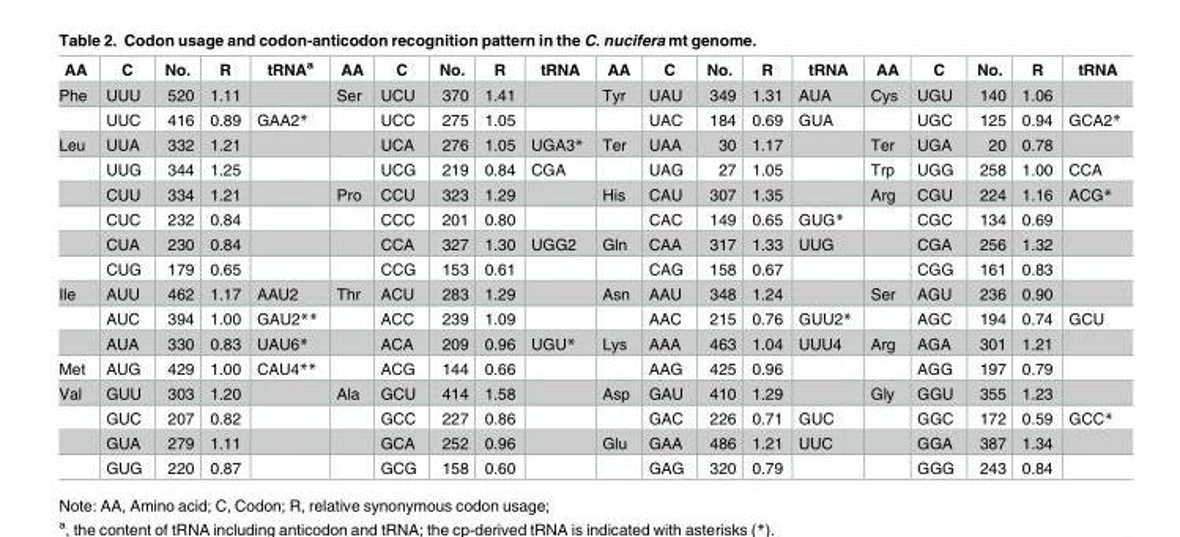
<table><thead><tr><td>AA</td><td>C</td><td>No.</td><td>R</td><td>tRNA<sup>a</sup></td><td>AA</td><td>C</td><td>No.</td><td>R</td><td>tRNA</td><td>AA</td><td>C</td><td>No.</td><td>R</td><td>tRNA</td><td>AA</td><td>C</td><td>No.</td><td>R</td><td>tRNA</td></tr></thead><tbody><tr><td rowspan="2">Phe</td><td>UUU</td><td>520</td><td>1.11</td><td></td><td>Ser</td><td>UCU</td><td>370</td><td>1.41</td><td></td><td>Tyr</td><td>UAU</td><td>349</td><td>1.31</td><td>AUA</td><td>Cys</td><td>UGU</td><td>140</td><td>1.06</td><td></td></tr><tr><td>UUC</td><td>416</td><td>0.89</td><td>GAA2*</td><td></td><td>UCC</td><td>275</td><td>1.05</td><td></td><td></td><td>UAC</td><td>184</td><td>0.69</td><td>GUA</td><td></td><td>UGC</td><td>125</td><td>0.94</td><td>GCA2*</td></tr><tr><td rowspan="6">Leu</td><td>UUA</td><td>332</td><td>1.21</td><td></td><td></td><td>UCA</td><td>276</td><td>1.05</td><td>UGA3*</td><td>Ter</td><td>UAA</td><td>30</td><td>1.17</td><td></td><td>Ter</td><td>UGA</td><td>20</td><td>0.78</td><td></td></tr><tr><td>UUG</td><td>344</td><td>1.25</td><td></td><td></td><td>UCG</td><td>219</td><td>0.84</td><td>CGA</td><td></td><td>UAG</td><td>27</td><td>1.05</td><td></td><td>Trp</td><td>UGG</td><td>258</td><td>1.00</td><td>CCA</td></tr><tr><td>CUU</td><td>334</td><td>1.21</td><td></td><td>Pro</td><td>CCU</td><td>323</td><td>1.29</td><td></td><td>His</td><td>CAU</td><td>307</td><td>1.35</td><td></td><td>Arg</td><td>CGU</td><td>224</td><td>1.16</td><td>ACG*</td></tr><tr><td>CUC</td><td>232</td><td>0.84</td><td></td><td></td><td>CCC</td><td>201</td><td>0.80</td><td></td><td></td><td>CAC</td><td>149</td><td>0.65</td><td>GUG*</td><td></td><td>CGC</td><td>134</td><td>0.69</td><td></td></tr><tr><td>CUA</td><td>230</td><td>0.84</td><td></td><td></td><td>CCA</td><td>327</td><td>1.30</td><td>UGG2</td><td>Gln</td><td>CAA</td><td>317</td><td>1.33</td><td>UUG</td><td></td><td>CGA</td><td>256</td><td>1.32</td><td></td></tr><tr><td>CUG</td><td>179</td><td>0.65</td><td></td><td></td><td>CCG</td><td>153</td><td>0.61</td><td></td><td></td><td>CAG</td><td>158</td><td>0.67</td><td></td><td></td><td>CGG</td><td>161</td><td>0.83</td><td></td></tr><tr><td rowspan="3">Ile</td><td>AUU</td><td>462</td><td>1.17</td><td>AAU2</td><td>Thr</td><td>ACU</td><td>283</td><td>1.29</td><td></td><td>Asn</td><td>AAU</td><td>348</td><td>1.24</td><td></td><td>Ser</td><td>AGU</td><td>236</td><td>0.90</td><td></td></tr><tr><td>AUC</td><td>394</td><td>1.00</td><td>GAU2**</td><td></td><td>ACC</td><td>239</td><td>1.09</td><td></td><td></td><td>AAC</td><td>215</td><td>0.76</td><td>GUU2*</td><td></td><td>AGC</td><td>194</td><td>0.74</td><td>GCU</td></tr><tr><td>AUA</td><td>330</td><td>0.83</td><td>UAU6*</td><td></td><td>ACA</td><td>209</td><td>0.96</td><td>UGU*</td><td>Lys</td><td>AAA</td><td>463</td><td>1.04</td><td>UUU4</td><td>Arg</td><td>AGA</td><td>301</td><td>1.21</td><td></td></tr><tr><td>Met</td><td>AUG</td><td>429</td><td>1.00</td><td>CAU4**</td><td></td><td>ACG</td><td>144</td><td>0.66</td><td></td><td></td><td>AAG</td><td>425</td><td>0.96</td><td></td><td></td><td>AGG</td><td>197</td><td>0.79</td><td></td></tr><tr><td rowspan="4">Val</td><td>GUU</td><td>303</td><td>1.20</td><td></td><td>Ala</td><td>GCU</td><td>414</td><td>1.58</td><td></td><td>Asp</td><td>GAU</td><td>410</td><td>1.29</td><td></td><td>Gly</td><td>GGU</td><td>355</td><td>1.23</td><td></td></tr><tr><td>GUC</td><td>207</td><td>0.82</td><td></td><td></td><td>GCC</td><td>227</td><td>0.86</td><td></td><td></td><td>GAC</td><td>226</td><td>0.71</td><td>GUC</td><td></td><td>GGC</td><td>172</td><td>0.59</td><td>GCC*</td></tr><tr><td>GUA</td><td>279</td><td>1.11</td><td></td><td></td><td>GCA</td><td>252</td><td>0.96</td><td></td><td>Glu</td><td>GAA</td><td>486</td><td>1.21</td><td>UUC</td><td></td><td>GGA</td><td>387</td><td>1.34</td><td></td></tr><tr><td>GUG</td><td>220</td><td>0.87</td><td></td><td></td><td>GCG</td><td>158</td><td>0.60</td><td></td><td></td><td>GAG</td><td>320</td><td>0.79</td><td></td><td></td><td>GGG</td><td>243</td><td>0.84</td><td></td></tr></tbody></table>